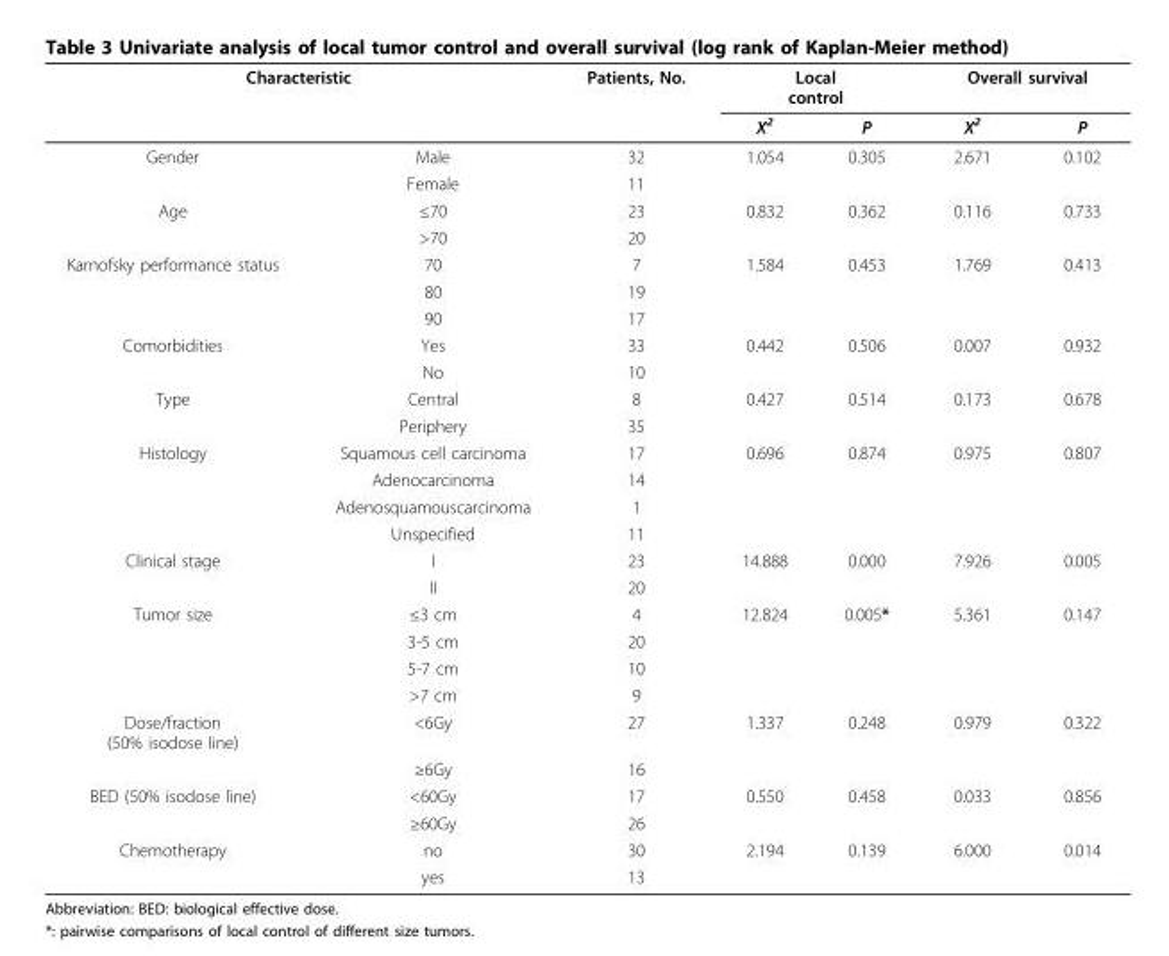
<table><thead><tr><td colspan="2">Characteristic</td><td rowspan="2">Patients, No.</td><td colspan="2">Local control</td><td colspan="2">Overall survival</td></tr><tr><td></td><td></td><td>Χ<sup>2</sup></td><td>P</td><td>Χ<sup>2</sup></td><td>P</td></tr></thead><tbody><tr><td rowspan="2">Gender</td><td>Male</td><td>32</td><td>1.054</td><td>0.305</td><td>2.671</td><td>0.102</td></tr><tr><td>Female</td><td>11</td><td></td><td></td><td></td><td></td></tr><tr><td rowspan="2">Age</td><td>≤70</td><td>23</td><td>0.832</td><td>0.362</td><td>0.116</td><td>0.733</td></tr><tr><td>&gt;70</td><td>20</td><td></td><td></td><td></td><td></td></tr><tr><td rowspan="3">Karnofsky performance status</td><td>70</td><td>7</td><td>1.584</td><td>0.453</td><td>1.769</td><td>0.413</td></tr><tr><td>80</td><td>19</td><td></td><td></td><td></td><td></td></tr><tr><td>90</td><td>17</td><td></td><td></td><td></td><td></td></tr><tr><td rowspan="2">Comorbidities</td><td>Yes</td><td>33</td><td>0.442</td><td>0.506</td><td>0.007</td><td>0.932</td></tr><tr><td>No</td><td>10</td><td></td><td></td><td></td><td></td></tr><tr><td rowspan="2">Type</td><td>Central</td><td>8</td><td>0.427</td><td>0.514</td><td>0.173</td><td>0.678</td></tr><tr><td>Periphery</td><td>35</td><td></td><td></td><td></td><td></td></tr><tr><td rowspan="4">Histology</td><td>Squamous cell carcinoma</td><td>17</td><td>0.696</td><td>0.874</td><td>0.975</td><td>0.807</td></tr><tr><td>Adenocarcinoma</td><td>14</td><td></td><td></td><td></td><td></td></tr><tr><td>Adenosquamouscarcinoma</td><td>1</td><td></td><td></td><td></td><td></td></tr><tr><td>Unspecified</td><td>11</td><td></td><td></td><td></td><td></td></tr><tr><td rowspan="2">Clinical stage</td><td>I</td><td>23</td><td>14.888</td><td>0.000</td><td>7.926</td><td>0.005</td></tr><tr><td>II</td><td>20</td><td></td><td></td><td></td><td></td></tr><tr><td rowspan="4">Tumor size</td><td>≤3 cm</td><td>4</td><td>12.824</td><td>0.005*</td><td>5.361</td><td>0.147</td></tr><tr><td>3-5 cm</td><td>20</td><td></td><td></td><td></td><td></td></tr><tr><td>5-7 cm</td><td>10</td><td></td><td></td><td></td><td></td></tr><tr><td>&gt;7 cm</td><td>9</td><td></td><td></td><td></td><td></td></tr><tr><td rowspan="2">Dose/fraction (50% isodose line)</td><td>&lt;6Gy</td><td>27</td><td>1.337</td><td>0.248</td><td>0.979</td><td>0.322</td></tr><tr><td>≥6Gy</td><td>16</td><td></td><td></td><td></td><td></td></tr><tr><td rowspan="2">BED (50% isodose line)</td><td>&lt;60Gy</td><td>17</td><td>0.550</td><td>0.458</td><td>0.033</td><td>0.856</td></tr><tr><td>≥60Gy</td><td>26</td><td></td><td></td><td></td><td></td></tr><tr><td rowspan="2">Chemotherapy</td><td>no</td><td>30</td><td>2.194</td><td>0.139</td><td>6.000</td><td>0.014</td></tr><tr><td>yes</td><td>13</td><td></td><td></td><td></td><td></td></tr></tbody></table>